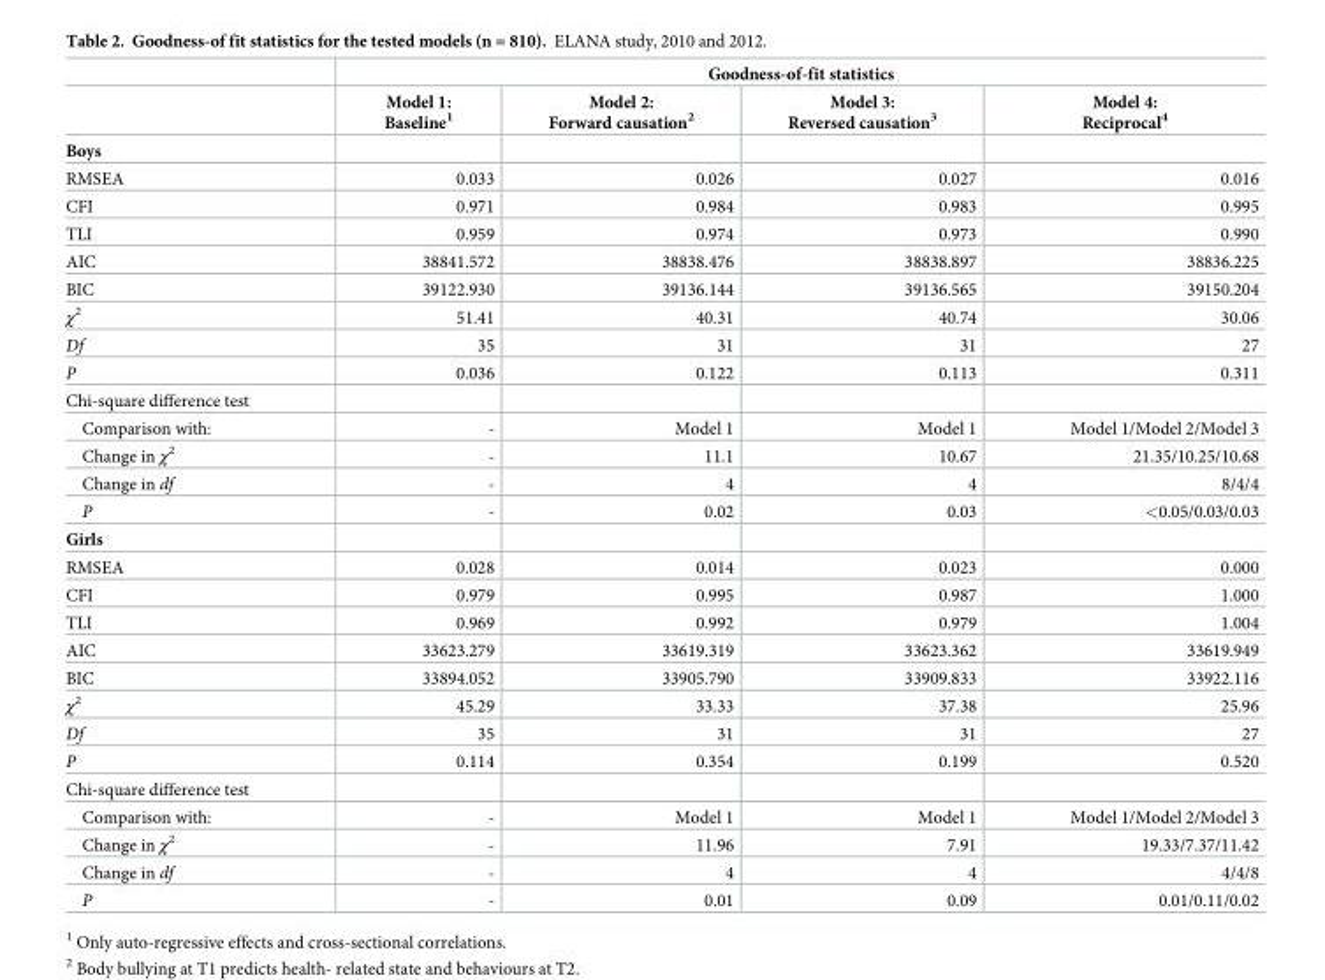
<table><thead><tr><td rowspan="2"></td><td colspan="4">Goodness-of-fit statistics</td></tr><tr><td>Model 1: Baseline<sup>1</sup></td><td>Model 2: Forward causation<sup>2</sup></td><td>Model 3: Reversed causation<sup>3</sup></td><td>Model 4: Reciprocal<sup>4</sup></td></tr></thead><tbody><tr><td colspan="5">Boys</td></tr><tr><td>RMSEA</td><td>0.033</td><td>0.026</td><td>0.027</td><td>0.016</td></tr><tr><td>CFI</td><td>0.971</td><td>0.984</td><td>0.983</td><td>0.995</td></tr><tr><td>TLI</td><td>0.959</td><td>0.974</td><td>0.973</td><td>0.990</td></tr><tr><td>AIC</td><td>38841.572</td><td>38838.476</td><td>38838.897</td><td>38836.225</td></tr><tr><td>BIC</td><td>39122.930</td><td>39136.144</td><td>39136.565</td><td>39150.204</td></tr><tr><td>χ<sup>2</sup></td><td>51.41</td><td>40.31</td><td>40.74</td><td>30.06</td></tr><tr><td>Df</td><td>35</td><td>31</td><td>31</td><td>27</td></tr><tr><td>P</td><td>0.036</td><td>0.122</td><td>0.113</td><td>0.311</td></tr><tr><td colspan="5">Chi-square difference test</td></tr><tr><td>Comparison with:</td><td>-</td><td>Model 1</td><td>Model 1</td><td>Model 1/Model 2/Model 3</td></tr><tr><td>Change in χ<sup>2</sup></td><td>-</td><td>11.1</td><td>10.67</td><td>21.35/10.25/10.68</td></tr><tr><td>Change in df</td><td>-</td><td>4</td><td>4</td><td>8/4/4</td></tr><tr><td>P</td><td>-</td><td>0.02</td><td>0.03</td><td>&lt;0.05/0.03/0.03</td></tr><tr><td colspan="5">Girls</td></tr><tr><td>RMSEA</td><td>0.028</td><td>0.014</td><td>0.023</td><td>0.000</td></tr><tr><td>CFI</td><td>0.979</td><td>0.995</td><td>0.987</td><td>1.000</td></tr><tr><td>TLI</td><td>0.969</td><td>0.992</td><td>0.979</td><td>1.004</td></tr><tr><td>AIC</td><td>33623.279</td><td>33619.319</td><td>33623.362</td><td>33619.949</td></tr><tr><td>BIC</td><td>33894.052</td><td>33905.790</td><td>33909.833</td><td>33922.116</td></tr><tr><td>χ<sup>2</sup></td><td>45.29</td><td>33.33</td><td>37.38</td><td>25.96</td></tr><tr><td>Df</td><td>35</td><td>31</td><td>31</td><td>27</td></tr><tr><td>P</td><td>0.114</td><td>0.354</td><td>0.199</td><td>0.520</td></tr><tr><td colspan="5">Chi-square difference test</td></tr><tr><td>Comparison with:</td><td>-</td><td>Model 1</td><td>Model 1</td><td>Model 1/Model 2/Model 3</td></tr><tr><td>Change in χ<sup>2</sup></td><td>-</td><td>11.96</td><td>7.91</td><td>19.33/7.37/11.42</td></tr><tr><td>Change in df</td><td>-</td><td>4</td><td>4</td><td>4/4/8</td></tr><tr><td>P</td><td>-</td><td>0.01</td><td>0.09</td><td>0.01/0.11/0.02</td></tr></tbody></table>